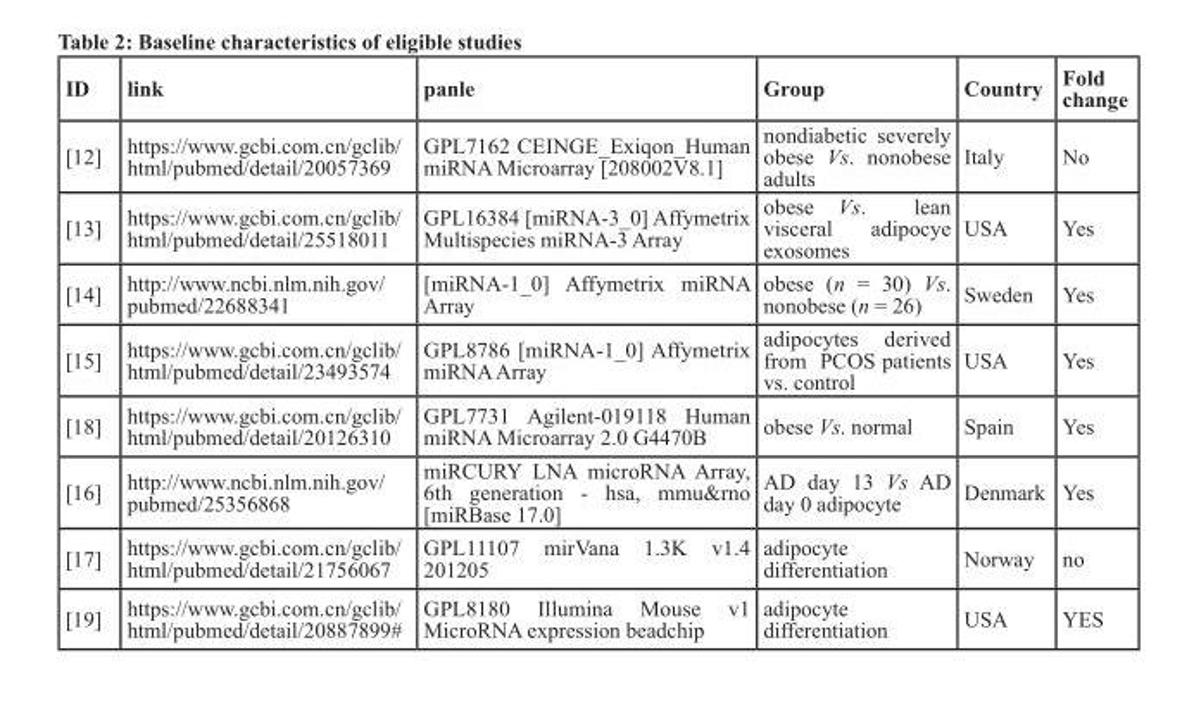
<table><thead><tr><td>ID</td><td>link</td><td>panle</td><td>Group</td><td>Country</td><td>Fold change</td></tr></thead><tbody><tr><td>[12]</td><td>https://www.gcbi.com.cn/gclib/ html/pubmed/detail/20057369</td><td>GPL7162 CEINGE_Exiqon_Human miRNA Microarray [208002V8.1]</td><td>nondiabetic severely obese Vs. nonobese adults</td><td>Italy</td><td>No</td></tr><tr><td>[13]</td><td>https://www.gcbi.com.cn/gclib/ html/pubmed/detail/25518011</td><td>GPL16384 [miRNA-3_0] Affymetrix Multispecies miRNA-3 Array</td><td>obese Vs. lean visceral adipocye exosomes</td><td>USA</td><td>Yes</td></tr><tr><td>[14]</td><td>http://www.ncbi.nlm.nih.gov/ pubmed/22688341</td><td>[miRNA-1_0] Affymetrix miRNA Array</td><td>obese (n = 30) Vs. nonobese (n = 26)</td><td>Sweden</td><td>Yes</td></tr><tr><td>[15]</td><td>https://www.gcbi.com.cn/gclib/ html/pubmed/detail/23493574</td><td>GPL8786 [miRNA-1_0] Affymetrix miRNA Array</td><td>adipocytes derived from PCOS patients vs. control</td><td>USA</td><td>Yes</td></tr><tr><td>[18]</td><td>https://www.gcbi.com.cn/gclib/ html/pubmed/detail/20126310</td><td>GPL7731 Agilent-019118 Human miRNA Microarray 2.0 G4470B</td><td>obese Vs. normal</td><td>Spain</td><td>Yes</td></tr><tr><td>[16]</td><td>http://www.ncbi.nlm.nih.gov/ pubmed/25356868</td><td>miRCURY LNA microRNA Array, 6th generation - hsa, mmu&amp;rno [miRBase 17.0]</td><td>AD day 13 Vs AD day 0 adipocyte</td><td>Denmark</td><td>Yes</td></tr><tr><td>[17]</td><td>https://www.gcbi.com.cn/gclib/ html/pubmed/detail/21756067</td><td>GPL11107 mirVana 1.3K v1.4 201205</td><td>adipocyte differentiation</td><td>Norway</td><td>no</td></tr><tr><td>[19]</td><td>https://www.gcbi.com.cn/gclib/ html/pubmed/detail/20887899#</td><td>GPL8180 Illumina Mouse v1 MicroRNA expression beadchip</td><td>adipocyte differentiation</td><td>USA</td><td>YES</td></tr></tbody></table>